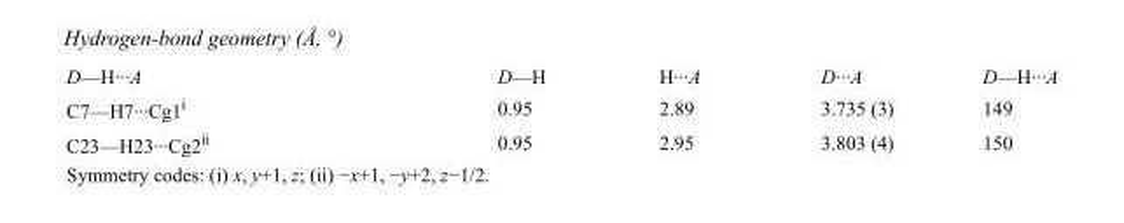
<table><tbody><tr><td>D—H···A</td><td>D—H</td><td>H···A</td><td>D···A</td><td>D—H···A</td></tr><tr><td>C7—H7···Cg1<sup>i</sup></td><td>0.95</td><td>2.89</td><td>3.735 (3)</td><td>149</td></tr><tr><td>C23—H23···Cg2<sup>ii</sup></td><td>0.95</td><td>2.95</td><td>3.803 (4)</td><td>150</td></tr></tbody></table>